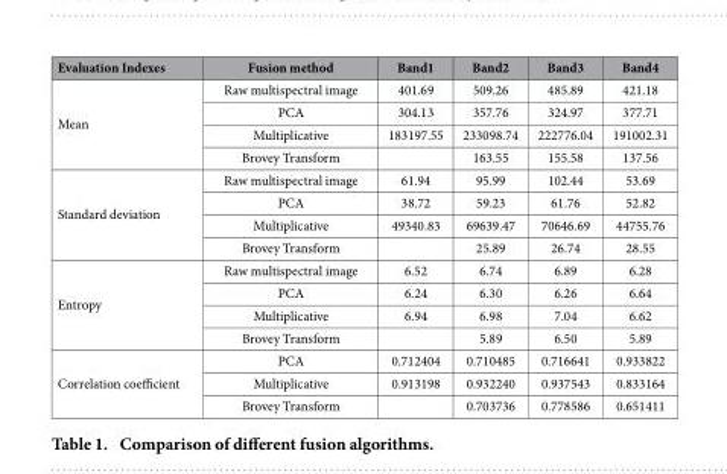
<table><thead><tr><td>Evaluation Indexes</td><td>Fusion method</td><td>Band1</td><td>Band2</td><td>Band3</td><td>Band4</td></tr></thead><tbody><tr><td rowspan="4">Mean</td><td>Raw multispectral image</td><td>401.69</td><td>509.26</td><td>485.89</td><td>421.18</td></tr><tr><td>PCA</td><td>304.13</td><td>357.76</td><td>324.97</td><td>377.71</td></tr><tr><td>Multiplicative</td><td>183197.55</td><td>233098.74</td><td>222776.04</td><td>191002.31</td></tr><tr><td>Brovey Transform</td><td></td><td>163.55</td><td>155.58</td><td>137.56</td></tr><tr><td rowspan="4">Standard deviation</td><td>Raw multispectral image</td><td>61.94</td><td>95.99</td><td>102.44</td><td>53.69</td></tr><tr><td>PCA</td><td>38.72</td><td>59.23</td><td>61.76</td><td>52.82</td></tr><tr><td>Multiplicative</td><td>49340.83</td><td>69639.47</td><td>70646.69</td><td>44755.76</td></tr><tr><td>Brovey Transform</td><td></td><td>25.89</td><td>26.74</td><td>28.55</td></tr><tr><td rowspan="4">Entropy</td><td>Raw multispectral image</td><td>6.52</td><td>6.74</td><td>6.89</td><td>6.28</td></tr><tr><td>PCA</td><td>6.24</td><td>6.30</td><td>6.26</td><td>6.64</td></tr><tr><td>Multiplicative</td><td>6.94</td><td>6.98</td><td>7.04</td><td>6.62</td></tr><tr><td>Brovey Transform</td><td></td><td>5.89</td><td>6.50</td><td>5.89</td></tr><tr><td rowspan="3">Correlation coefficient</td><td>PCA</td><td>0.712404</td><td>0.710485</td><td>0.716641</td><td>0.933822</td></tr><tr><td>Multiplicative</td><td>0.913198</td><td>0.932240</td><td>0.937543</td><td>0.833164</td></tr><tr><td>Brovey Transform</td><td></td><td>0.703736</td><td>0.778586</td><td>0.651411</td></tr></tbody></table>